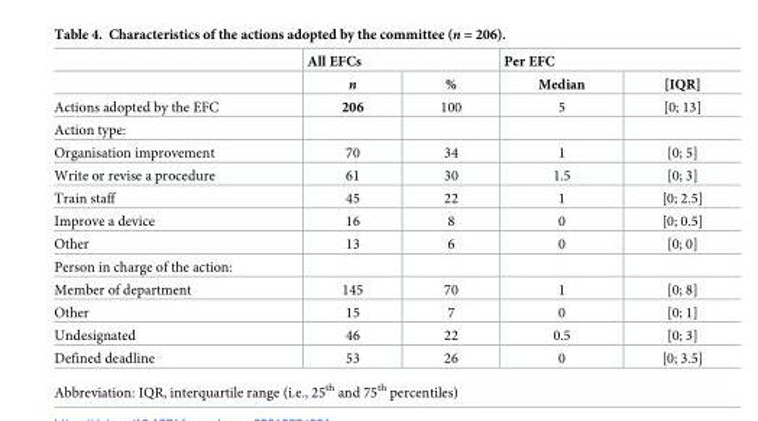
<table><thead><tr><td rowspan="2"></td><td colspan="2">All EFCs</td><td colspan="2">Per EFC</td></tr><tr><td>n</td><td>%</td><td>Median</td><td>[IQR]</td></tr></thead><tbody><tr><td>Actions adopted by the EFC</td><td>206</td><td>100</td><td>5</td><td>[0; 13]</td></tr><tr><td colspan="5">Action type:</td></tr><tr><td>Organisation improvement</td><td>70</td><td>34</td><td>1</td><td>[0; 5]</td></tr><tr><td>Write or revise a procedure</td><td>61</td><td>30</td><td>1.5</td><td>[0; 3]</td></tr><tr><td>Train staff</td><td>45</td><td>22</td><td>1</td><td>[0; 2.5]</td></tr><tr><td>Improve a device</td><td>16</td><td>8</td><td>0</td><td>[0; 0.5]</td></tr><tr><td>Other</td><td>13</td><td>6</td><td>0</td><td>[0; 0]</td></tr><tr><td colspan="5">Person in charge of the action:</td></tr><tr><td>Member of department</td><td>145</td><td>70</td><td>1</td><td>[0; 8]</td></tr><tr><td>Other</td><td>15</td><td>7</td><td>0</td><td>[0; 1]</td></tr><tr><td>Undesignated</td><td>46</td><td>22</td><td>0.5</td><td>[0; 3]</td></tr><tr><td>Defined deadline</td><td>53</td><td>26</td><td>0</td><td>[0; 3.5]</td></tr></tbody></table>